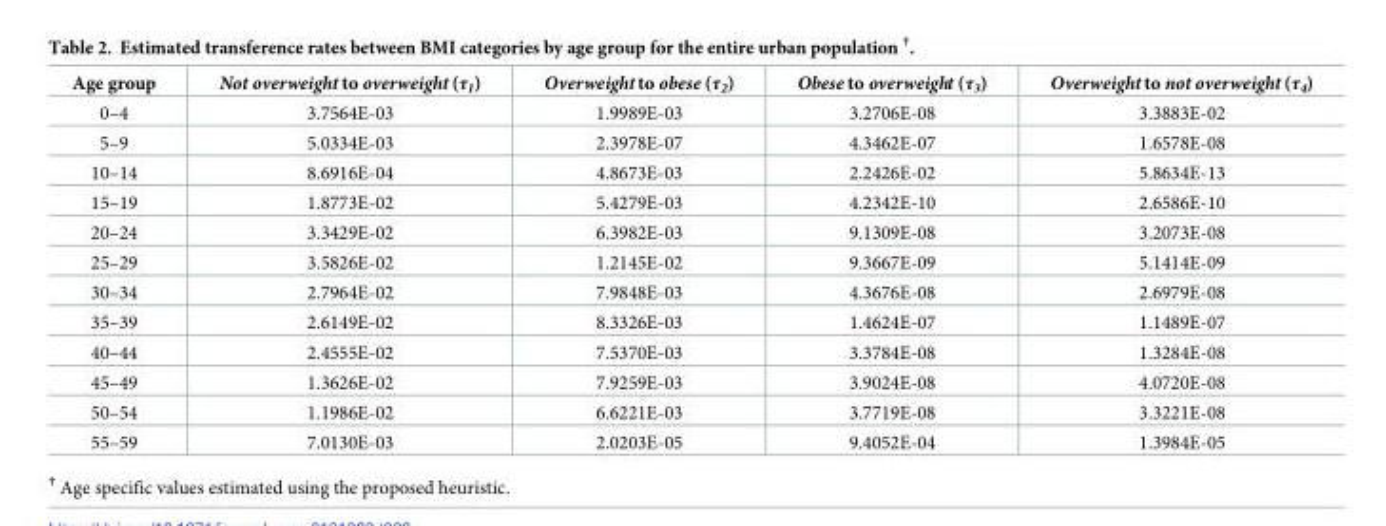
<table><thead><tr><td>Age group</td><td>Not overweight to overweight (τ<sub>1</sub>)</td><td>Overweightto obese (τ<sub>2</sub>)</td><td>Obese to overweight (τ<sub>3</sub>)</td><td>Overweight to not overweight (τ<sub>4</sub>)</td></tr></thead><tbody><tr><td>0–4</td><td>3.7564E-03</td><td>1.9989E-03</td><td>3.2706E-08</td><td>3.3883E-02</td></tr><tr><td>5–9</td><td>5.0334E-03</td><td>2.3978E-07</td><td>4.3462E-07</td><td>1.6578E-08</td></tr><tr><td>10–14</td><td>8.6916E-04</td><td>4.8673E-03</td><td>2.2426E-02</td><td>5.8634E-13</td></tr><tr><td>15–19</td><td>1.8773E-02</td><td>5.4279E-03</td><td>4.2342E-10</td><td>2.6586E-10</td></tr><tr><td>20–24</td><td>3.3429E-02</td><td>6.3982E-03</td><td>9.1309E-08</td><td>3.2073E-08</td></tr><tr><td>25–29</td><td>3.5826E-02</td><td>1.2145E-02</td><td>9.3667E-09</td><td>5.1414E-09</td></tr><tr><td>30–34</td><td>2.7964E-02</td><td>7.9848E-03</td><td>4.3676E-08</td><td>2.6979E-08</td></tr><tr><td>35–39</td><td>2.6149E-02</td><td>8.3326E-03</td><td>1.4624E-07</td><td>1.1489E-07</td></tr><tr><td>40–44</td><td>2.4555E-02</td><td>7.5370E-03</td><td>3.3784E-08</td><td>1.3284E-08</td></tr><tr><td>45–49</td><td>1.3626E-02</td><td>7.9259E-03</td><td>3.9024E-08</td><td>4.0720E-08</td></tr><tr><td>50–54</td><td>1.1986E-02</td><td>6.6221E-03</td><td>3.7719E-08</td><td>3.3221E-08</td></tr><tr><td>55–59</td><td>7.0130E-03</td><td>2.0203E-05</td><td>9.4052E-04</td><td>1.3984E-05</td></tr></tbody></table>